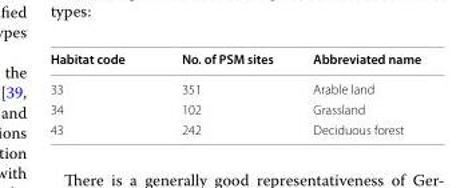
<table><thead><tr><td>Habitat code</td><td>No. of PSM sites</td><td>Abbreviated name</td></tr></thead><tbody><tr><td>33</td><td>351</td><td>Arable land</td></tr><tr><td>34</td><td>102</td><td>Grassland</td></tr><tr><td>43</td><td>242</td><td>Deciduous forest</td></tr></tbody></table>